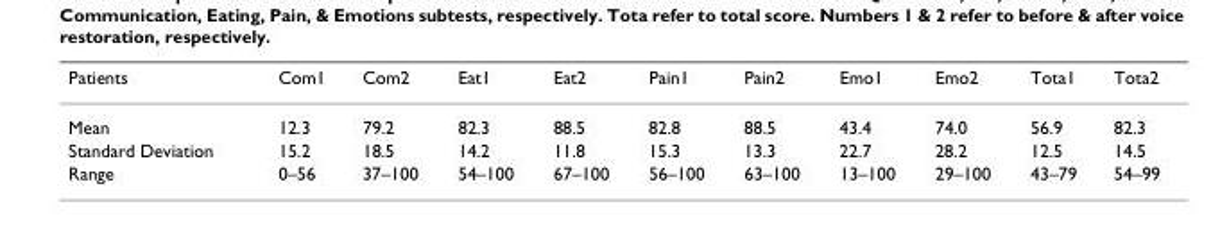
<table><thead><tr><td>Patients</td><td>Com1</td><td>Com2</td><td>Eat1</td><td>Eat2</td><td>Pain1</td><td>Pain2</td><td>Emo1</td><td>Emo2</td><td>Tota1</td><td>Tota2</td></tr></thead><tbody><tr><td>Mean</td><td>12.3</td><td>79.2</td><td>82.3</td><td>88.5</td><td>82.8</td><td>88.5</td><td>43.4</td><td>74.0</td><td>56.9</td><td>82.3</td></tr><tr><td>Standard Deviation</td><td>15.2</td><td>18.5</td><td>14.2</td><td>11.8</td><td>15.3</td><td>13.3</td><td>22.7</td><td>28.2</td><td>12.5</td><td>14.5</td></tr><tr><td>Range</td><td>0–56</td><td>37–100</td><td>54–100</td><td>67–100</td><td>56–100</td><td>63–100</td><td>13–100</td><td>29–100</td><td>43–79</td><td>54–99</td></tr></tbody></table>